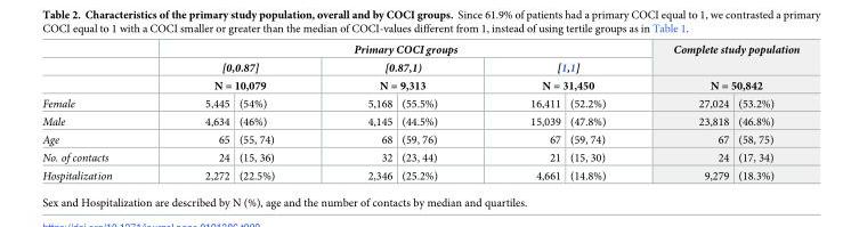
<table><thead><tr><td rowspan="4">Female</td><td colspan="6">Primary COCI groups</td><td rowspan="3" colspan="2">Complete study population N = 50,842</td></tr><tr><td rowspan="2" colspan="2">[0,0.87] N = 10,079</td><td rowspan="2" colspan="2">[0.87,1) N = 9,313</td><td rowspan="2" colspan="2">[1,1] N = 31,450</td></tr><tr></tr><tr><td>5,445</td><td>(54%)</td><td>5,168</td><td>(55.5%)</td><td>16,411</td><td>(52.2%)</td><td>27,024</td><td>(53.2%)</td></tr></thead><tbody><tr><td>Male</td><td>4,634</td><td>(46%)</td><td>4,145</td><td>(44.5%)</td><td>15,039</td><td>(47.8%)</td><td>23,818</td><td>(46.8%)</td></tr><tr><td>Age</td><td>65</td><td>(55, 74)</td><td>68</td><td>(59, 76)</td><td>67</td><td>(59, 74)</td><td>67</td><td>(58, 75)</td></tr><tr><td>No. of contacts</td><td>24</td><td>(15, 36)</td><td>32</td><td>(23, 44)</td><td>21</td><td>(15, 30)</td><td>24</td><td>(17, 34)</td></tr><tr><td>Hospitalization</td><td>2,272</td><td>(22.5%)</td><td>2,346</td><td>(25.2%)</td><td>4,661</td><td>(14.8%)</td><td>9,279</td><td>(18.3%)</td></tr></tbody></table>